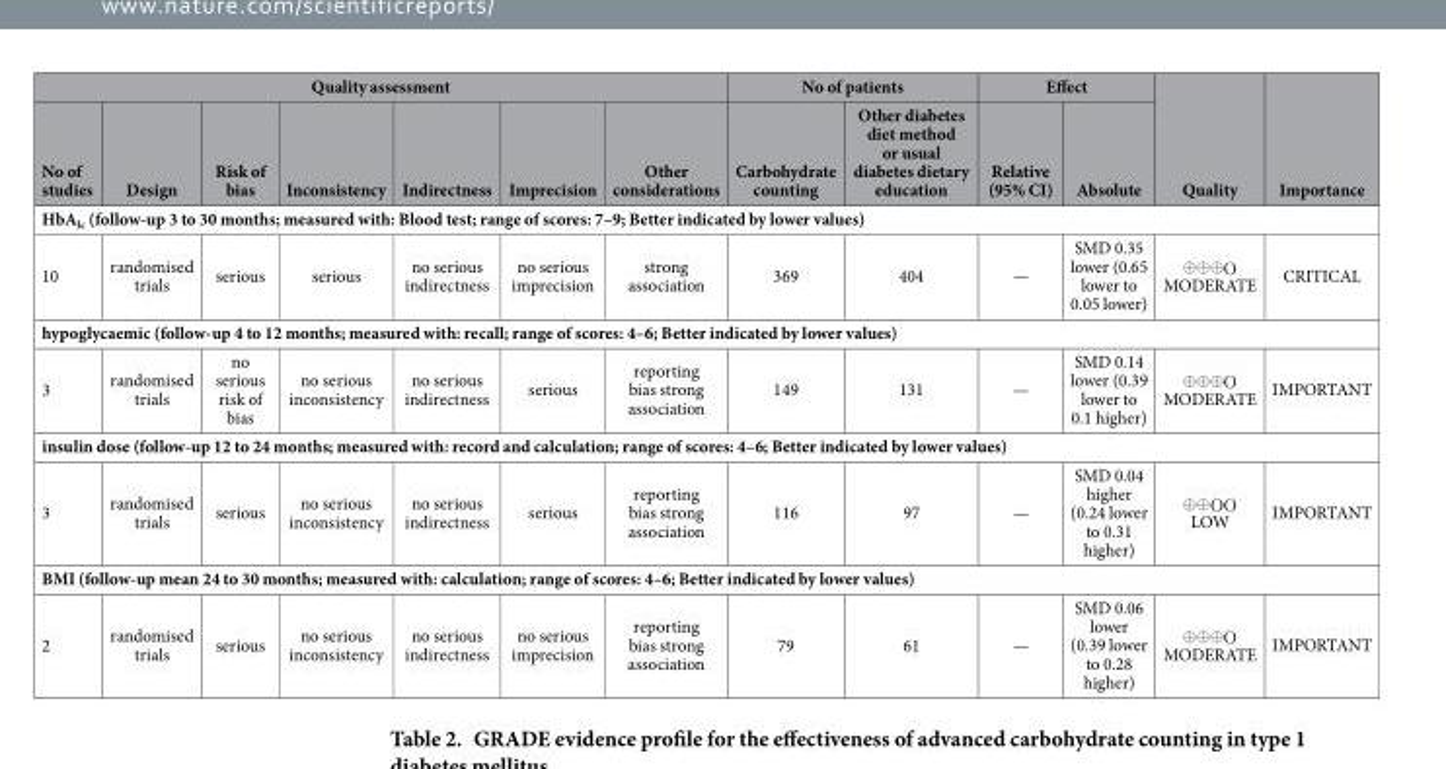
<table><thead><tr><td colspan="7">Quality assessment</td><td colspan="2">No of patients</td><td colspan="2">Effect</td><td rowspan="2">Quality</td><td rowspan="2">Importance</td></tr><tr><td>No of studies</td><td>Design</td><td>Risk of bias</td><td>Inconsistency</td><td>Indirectness</td><td>Imprecision</td><td>Other considerations</td><td>Carbohydrate counting</td><td>Other diabetes diet method or usual diabetes dietary education</td><td>Relative (95% CI)</td><td>Absolute</td></tr></thead><tbody><tr><td colspan="13">HbA<sub>lc</sub> (follow-up 3 to 30 months; measured with: Blood test; range of scores: 7–9; Better indicated by lower values)</td></tr><tr><td>10</td><td>randomised trials</td><td>serious</td><td>serious</td><td>no serious indirectness</td><td>no serious imprecision</td><td>strong association</td><td>369</td><td>404</td><td>—</td><td>SMD 0.35 lower (0.65 lower to 0.05 lower)</td><td>⊕ ⊕ ⊕ Ο MODERATE</td><td>CRITICAL</td></tr><tr><td colspan="13">hypoglycaemic (follow-up 4 to 12 months; measured with: recall; range of scores: 4–6; Better indicated by lower values)</td></tr><tr><td>3</td><td>randomised trials</td><td>no serious risk of bias</td><td>no serious inconsistency</td><td>no serious indirectness</td><td>serious</td><td>reporting bias strong association</td><td>149</td><td>131</td><td>—</td><td>SMD 0.14 lower (0.39 lower to 0.1 higher)</td><td>⊕ ⊕ ⊕ Ο MODERATE</td><td>IMPORTANT</td></tr><tr><td colspan="13">insulin dose (follow-up 12 to 24 months; measured with: record and calculation; range of scores: 4–6; Better indicated by lower values)</td></tr><tr><td>3</td><td>randomised trials</td><td>serious</td><td>no serious inconsistency</td><td>no serious indirectness</td><td>serious</td><td>reporting bias strong association</td><td>116</td><td>97</td><td>—</td><td>SMD 0.04 higher (0.24 lower to 0.31 higher)</td><td>⊕ ⊕Ο Ο LOW</td><td>IMPORTANT</td></tr><tr><td colspan="13">BMI (follow-up mean 24 to 30 months; measured with: calculation; range of scores: 4–6; Better indicated by lower values)</td></tr><tr><td>2</td><td>randomised trials</td><td>serious</td><td>no serious inconsistency</td><td>no serious indirectness</td><td>no serious imprecision</td><td>reporting bias strong association</td><td>79</td><td>61</td><td>—</td><td>SMD 0.06 lower (0.39 lower to 0.28 higher)</td><td>⊕ ⊕ ⊕ Ο MODERATE</td><td>IMPORTANT</td></tr></tbody></table>